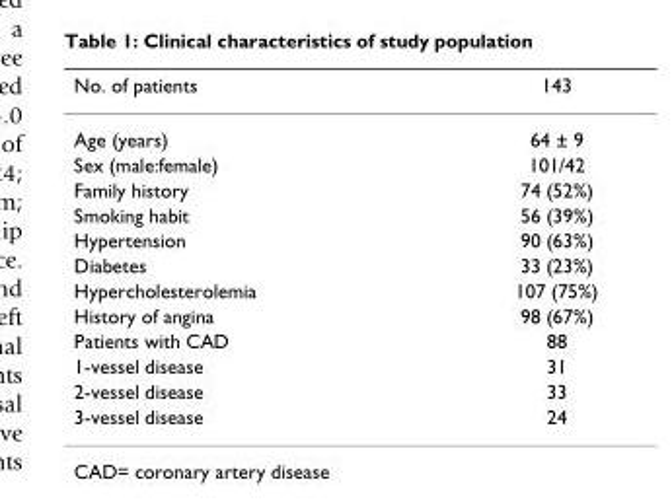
<table><thead><tr><td>No. of patients</td><td>143</td></tr></thead><tbody><tr><td>Age (years)</td><td>64 ± 9</td></tr><tr><td>Sex (male:female)</td><td>101/42</td></tr><tr><td>Family history</td><td>74 (52%)</td></tr><tr><td>Smoking habit</td><td>56 (39%)</td></tr><tr><td>Hypertension</td><td>90 (63%)</td></tr><tr><td>Diabetes</td><td>33 (23%)</td></tr><tr><td>Hypercholesterolemia</td><td>107 (75%)</td></tr><tr><td>History of angina</td><td>98 (67%)</td></tr><tr><td>Patients with CAD</td><td>88</td></tr><tr><td>1-vessel disease</td><td>31</td></tr><tr><td>2-vessel disease</td><td>33</td></tr><tr><td>3-vessel disease</td><td>24</td></tr></tbody></table>